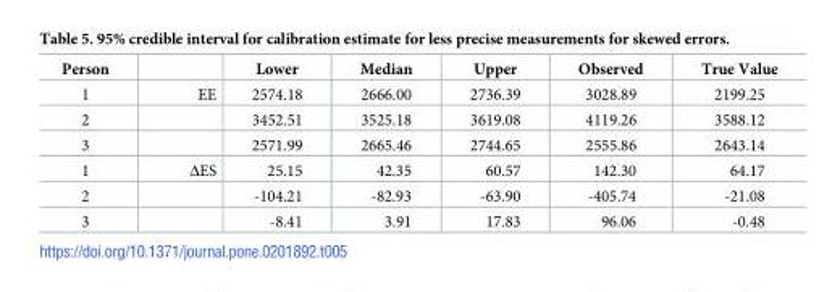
<table><thead><tr><td>Person</td><td></td><td>Lower</td><td>Median</td><td>Upper</td><td>Observed</td><td>True Value</td></tr></thead><tbody><tr><td>1</td><td>EE</td><td>2574.18</td><td>2666.00</td><td>2736.39</td><td>3028.89</td><td>2199.25</td></tr><tr><td>2</td><td></td><td>3452.51</td><td>3525.18</td><td>3619.08</td><td>4119.26</td><td>3588.12</td></tr><tr><td>3</td><td></td><td>2571.99</td><td>2665.46</td><td>2744.65</td><td>2555.86</td><td>2643.14</td></tr><tr><td>1</td><td>ΔES</td><td>25.15</td><td>42.35</td><td>60.57</td><td>142.30</td><td>64.17</td></tr><tr><td>2</td><td></td><td>-104.21</td><td>-82.93</td><td>-63.90</td><td>-405.74</td><td>-21.08</td></tr><tr><td>3</td><td></td><td>-8.41</td><td>3.91</td><td>17.83</td><td>96.06</td><td>-0.48</td></tr></tbody></table>